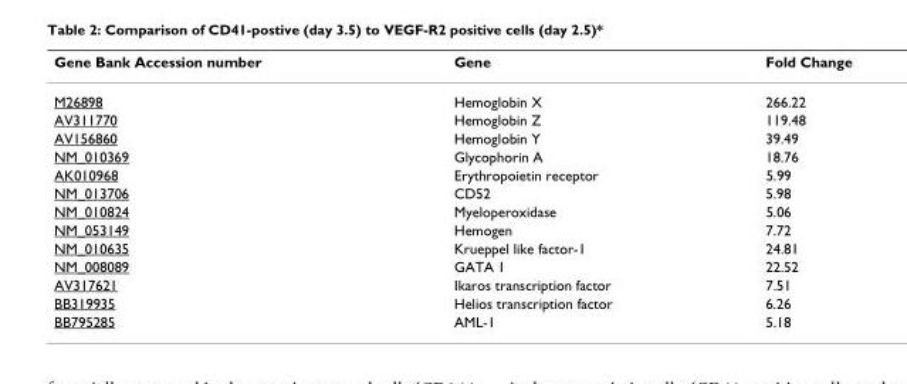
<table><thead><tr><td>Gene Bank Accession number</td><td>Gene</td><td>Fold Change</td></tr></thead><tbody><tr><td>M26898</td><td>Hemoglobin X</td><td>266.22</td></tr><tr><td>AV311770</td><td>Hemoglobin Z</td><td>119.48</td></tr><tr><td>AV156860</td><td>Hemoglobin Y</td><td>39.49</td></tr><tr><td>NM_010369</td><td>Glycophorin A</td><td>18.76</td></tr><tr><td>AK010968</td><td>Erythropoietin receptor</td><td>5.99</td></tr><tr><td>NM_013706</td><td>CD52</td><td>5.98</td></tr><tr><td>NM_010824</td><td>Myeloperoxidase</td><td>5.06</td></tr><tr><td>NM_053149</td><td>Hemogen</td><td>7.72</td></tr><tr><td>NM_010635</td><td>Krueppel like factor-1</td><td>24.81</td></tr><tr><td>NM_008089</td><td>GATA 1</td><td>22.52</td></tr><tr><td>AV317621</td><td>Ikaros transcription factor</td><td>7.51</td></tr><tr><td>BB319935</td><td>Helios transcription factor</td><td>6.26</td></tr><tr><td>BB795285</td><td>AML-1</td><td>5.18</td></tr></tbody></table>